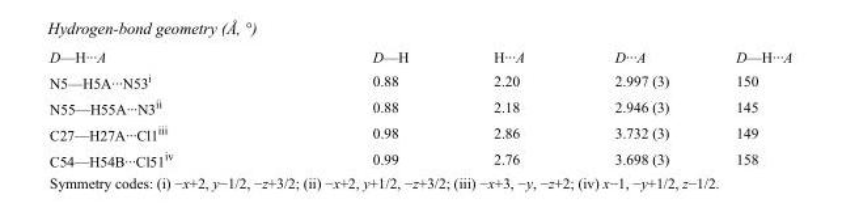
<table><tbody><tr><td>D—H···A</td><td>D—H</td><td>H···A</td><td>D···A</td><td>D—H···A</td></tr><tr><td>N5—H5A···N53<sup>i</sup></td><td>0.88</td><td>2.20</td><td>2.997 (3)</td><td>150</td></tr><tr><td>N55—H55A···N3<sup>ii</sup></td><td>0.88</td><td>2.18</td><td>2.946 (3)</td><td>145</td></tr><tr><td>C27—H27A···Cl1<sup>iii</sup></td><td>0.98</td><td>2.86</td><td>3.732 (3)</td><td>149</td></tr><tr><td>C54—H54B···Cl51<sup>iv</sup></td><td>0.99</td><td>2.76</td><td>3.698 (3)</td><td>158</td></tr></tbody></table>